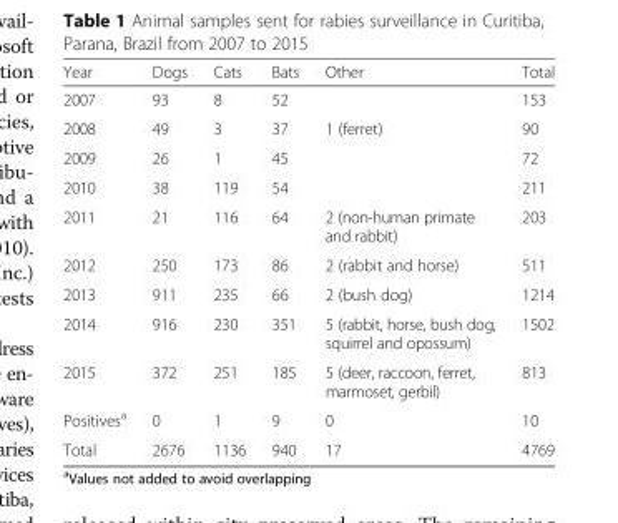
<table><thead><tr><td>Year</td><td>Dogs</td><td>Cats</td><td>Bats</td><td>Other</td><td>Total</td></tr></thead><tbody><tr><td>2007</td><td>93</td><td>8</td><td>52</td><td></td><td>153</td></tr><tr><td>2008</td><td>49</td><td>3</td><td>37</td><td>1 (ferret)</td><td>90</td></tr><tr><td>2009</td><td>26</td><td>1</td><td>45</td><td></td><td>72</td></tr><tr><td>2010</td><td>38</td><td>119</td><td>54</td><td></td><td>211</td></tr><tr><td>2011</td><td>21</td><td>116</td><td>64</td><td>2 (non-human primate and rabbit)</td><td>203</td></tr><tr><td>2012</td><td>250</td><td>173</td><td>86</td><td>2 (rabbit and horse)</td><td>511</td></tr><tr><td>2013</td><td>911</td><td>235</td><td>66</td><td>2 (bush dog)</td><td>1214</td></tr><tr><td>2014</td><td>916</td><td>230</td><td>351</td><td>5 (rabbit, horse, bush dog, squirrel and opossum)</td><td>1502</td></tr><tr><td>2015</td><td>372</td><td>251</td><td>185</td><td>5 (deer, raccoon, ferret, marmoset, gerbil)</td><td>813</td></tr><tr><td>Positives<sup>a</sup></td><td>0</td><td>1</td><td>9</td><td>0</td><td>10</td></tr><tr><td>Total</td><td>2676</td><td>1136</td><td>940</td><td>17</td><td>4769</td></tr></tbody></table>